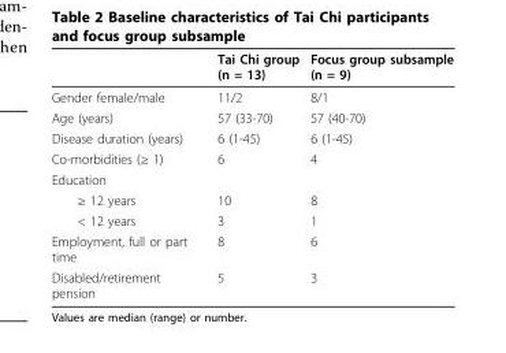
<table><thead><tr><td></td><td>Tai Chi group (n = 13)</td><td>Focus group subsample (n = 9)</td></tr></thead><tbody><tr><td>Gender female/male</td><td>11/2</td><td>8/1</td></tr><tr><td>Age (years)</td><td>57 (33-70)</td><td>57 (40-70)</td></tr><tr><td>Disease duration (years)</td><td>6 (1-45)</td><td>6 (1-45)</td></tr><tr><td>Co-morbidities (≥ 1)</td><td>6</td><td>4</td></tr><tr><td colspan="3">Education</td></tr><tr><td>≥ 12 years</td><td>10</td><td>8</td></tr><tr><td>&lt; 12 years</td><td>3</td><td>1</td></tr><tr><td>Employment, full or part time</td><td>8</td><td>6</td></tr><tr><td>Disabled/retirement pension</td><td>5</td><td>3</td></tr></tbody></table>